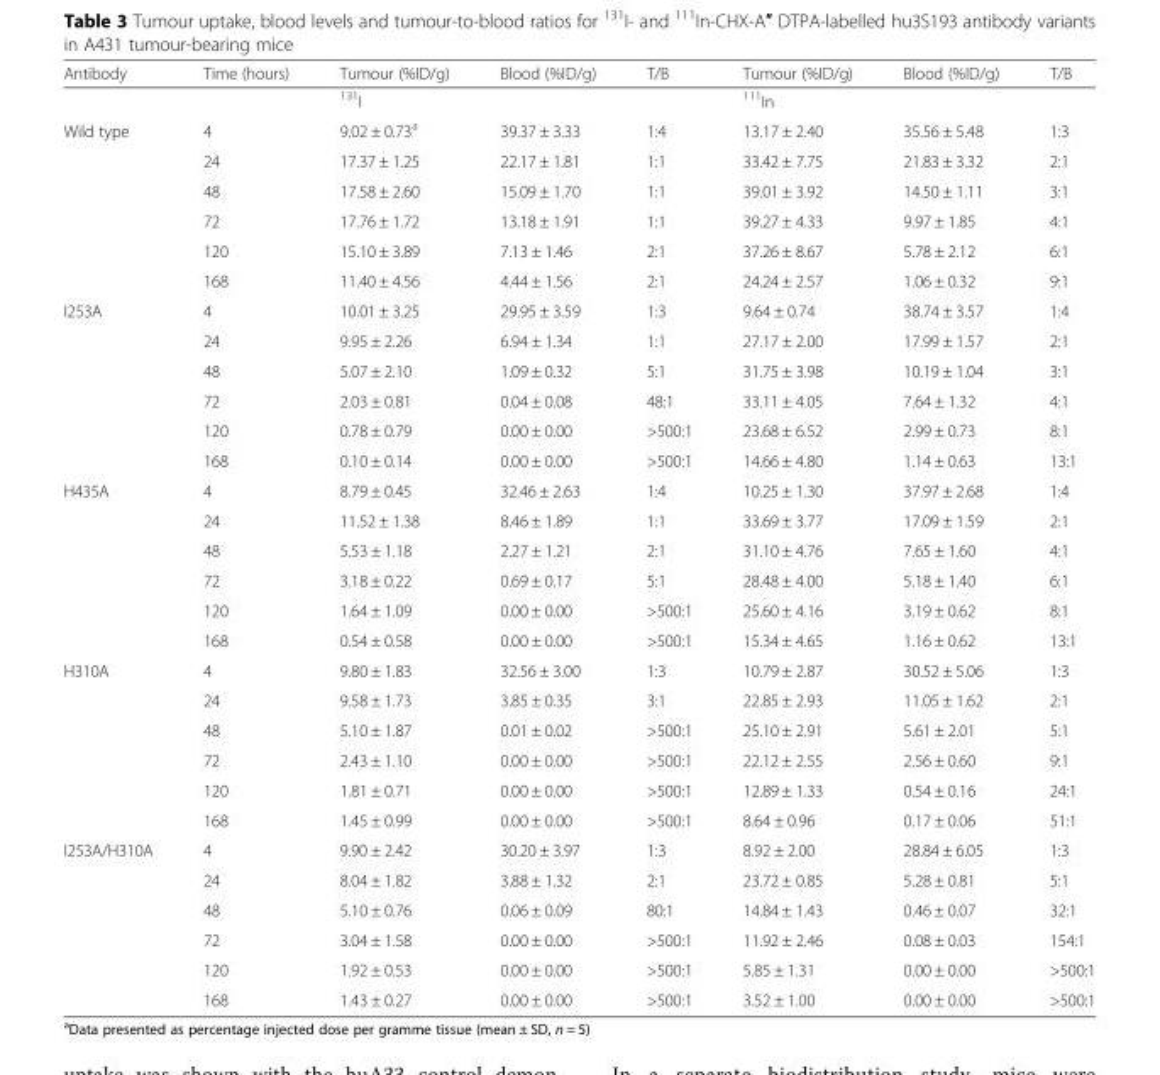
<table><thead><tr><td>Antibody</td><td>Time (hours)</td><td>Tumour (%ID/g)</td><td>Blood (%ID/g)</td><td>T/B</td><td>Tumour (%ID/g)</td><td>Blood (%ID/g)</td><td>T/B</td></tr></thead><tbody><tr><td></td><td></td><td colspan="3"><sup>131</sup>I</td><td colspan="3"><sup>111</sup>In</td></tr><tr><td rowspan="6">Wild type</td><td>4</td><td>9.02 ± 0.73<sup>a</sup></td><td>39.37 ± 3.33</td><td>1:4</td><td>13.17 ± 2.40</td><td>35.56 ± 5.48</td><td>1:3</td></tr><tr><td>24</td><td>17.37 ± 1.25</td><td>22.17 ± 1.81</td><td>1:1</td><td>33.42 ± 7.75</td><td>21.83 ± 3.32</td><td>2:1</td></tr><tr><td>48</td><td>17.58 ± 2.60</td><td>15.09 ± 1.70</td><td>1:1</td><td>39.01 ± 3.92</td><td>14.50 ± 1.11</td><td>3:1</td></tr><tr><td>72</td><td>17.76 ± 1.72</td><td>13.18 ± 1.91</td><td>1:1</td><td>39.27 ± 4.33</td><td>9.97 ± 1.85</td><td>4:1</td></tr><tr><td>120</td><td>15.10 ± 3.89</td><td>7.13 ± 1.46</td><td>2:1</td><td>37.26 ± 8.67</td><td>5.78 ± 2.12</td><td>6:1</td></tr><tr><td>168</td><td>11.40 ± 4.56</td><td>4.44 ± 1.56</td><td>2:1</td><td>24.24 ± 2.57</td><td>1.06 ± 0.32</td><td>9:1</td></tr><tr><td rowspan="6">I253A</td><td>4</td><td>10.01 ± 3.25</td><td>29.95 ± 3.59</td><td>1:3</td><td>9.64 ± 0.74</td><td>38.74 ± 3.57</td><td>1:4</td></tr><tr><td>24</td><td>9.95 ± 2.26</td><td>6.94 ± 1.34</td><td>1:1</td><td>27.17 ± 2.00</td><td>17.99 ± 1.57</td><td>2:1</td></tr><tr><td>48</td><td>5.07 ± 2.10</td><td>1.09 ± 0.32</td><td>5:1</td><td>31.75 ± 3.98</td><td>10.19 ± 1.04</td><td>3:1</td></tr><tr><td>72</td><td>2.03 ± 0.81</td><td>0.04 ± 0.08</td><td>48:1</td><td>33.11 ± 4.05</td><td>7.64 ± 1.32</td><td>4:1</td></tr><tr><td>120</td><td>0.78 ± 0.79</td><td>0.00 ± 0.00</td><td>&gt;500:1</td><td>23.68 ± 6.52</td><td>2.99 ± 0.73</td><td>8:1</td></tr><tr><td>168</td><td>0.10 ± 0.14</td><td>0.00 ± 0.00</td><td>&gt;500:1</td><td>14.66 ± 4.80</td><td>1.14 ± 0.63</td><td>13:1</td></tr><tr><td rowspan="6">H435A</td><td>4</td><td>8.79 ± 0.45</td><td>32.46 ± 2.63</td><td>1:4</td><td>10.25 ± 1.30</td><td>37.97 ± 2.68</td><td>1:4</td></tr><tr><td>24</td><td>11.52 ± 1.38</td><td>8.46 ± 1.89</td><td>1:1</td><td>33.69 ± 3.77</td><td>17.09 ± 1.59</td><td>2:1</td></tr><tr><td>48</td><td>5.53 ± 1.18</td><td>2.27 ± 1.21</td><td>2:1</td><td>31.10 ± 4.76</td><td>7.65 ± 1.60</td><td>4:1</td></tr><tr><td>72</td><td>3.18 ± 0.22</td><td>0.69 ± 0.17</td><td>5:1</td><td>28.48 ± 4.00</td><td>5.18 ± 1.40</td><td>6:1</td></tr><tr><td>120</td><td>1.64 ± 1.09</td><td>0.00 ± 0.00</td><td>&gt;500:1</td><td>25.60 ± 4.16</td><td>3.19 ± 0.62</td><td>8:1</td></tr><tr><td>168</td><td>0.54 ± 0.58</td><td>0.00 ± 0.00</td><td>&gt;500:1</td><td>15.34 ± 4.65</td><td>1.16 ± 0.62</td><td>13:1</td></tr><tr><td rowspan="6">H310A</td><td>4</td><td>9.80 ± 1.83</td><td>32.56 ± 3.00</td><td>1:3</td><td>10.79 ± 2.87</td><td>30.52 ± 5.06</td><td>1:3</td></tr><tr><td>24</td><td>9.58 ± 1.73</td><td>3.85 ± 0.35</td><td>3:1</td><td>22.85 ± 2.93</td><td>11.05 ± 1.62</td><td>2:1</td></tr><tr><td>48</td><td>5.10 ± 1.87</td><td>0.01 ± 0.02</td><td>&gt;500:1</td><td>25.10 ± 2.91</td><td>5.61 ± 2.01</td><td>5:1</td></tr><tr><td>72</td><td>2.43 ± 1.10</td><td>0.00 ± 0.00</td><td>&gt;500:1</td><td>22.12 ± 2.55</td><td>2.56 ± 0.60</td><td>9:1</td></tr><tr><td>120</td><td>1.81 ± 0.71</td><td>0.00 ± 0.00</td><td>&gt;500:1</td><td>12.89 ± 1.33</td><td>0.54 ± 0.16</td><td>24:1</td></tr><tr><td>168</td><td>1.45 ± 0.99</td><td>0.00 ± 0.00</td><td>&gt;500:1</td><td>8.64 ± 0.96</td><td>0.17 ± 0.06</td><td>51:1</td></tr><tr><td rowspan="6">I253A/H310A</td><td>4</td><td>9.90 ± 2.42</td><td>30.20 ± 3.97</td><td>1:3</td><td>8.92 ± 2.00</td><td>28.84 ± 6.05</td><td>1:3</td></tr><tr><td>24</td><td>8.04 ± 1.82</td><td>3.88 ± 1.32</td><td>2:1</td><td>23.72 ± 0.85</td><td>5.28 ± 0.81</td><td>5:1</td></tr><tr><td>48</td><td>5.10 ± 0.76</td><td>0.06 ± 0.09</td><td>80:1</td><td>14.84 ± 1.43</td><td>0.46 ± 0.07</td><td>32:1</td></tr><tr><td>72</td><td>3.04 ± 1.58</td><td>0.00 ± 0.00</td><td>&gt;500:1</td><td>11.92 ± 2.46</td><td>0.08 ± 0.03</td><td>154:1</td></tr><tr><td>120</td><td>1.92 ± 0.53</td><td>0.00 ± 0.00</td><td>&gt;500:1</td><td>5.85 ± 1.31</td><td>0.00 ± 0.00</td><td>&gt;500:1</td></tr><tr><td>168</td><td>1.43 ± 0.27</td><td>0.00 ± 0.00</td><td>&gt;500:1</td><td>3.52 ± 1.00</td><td>0.00 ± 0.00</td><td>&gt;500:1</td></tr></tbody></table>